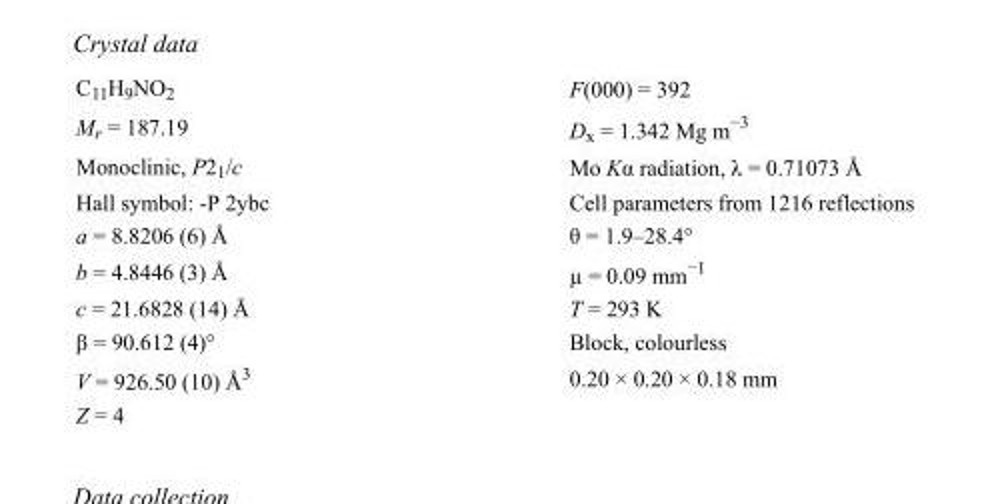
<table><tbody><tr><td>C<sub>11</sub>H<sub>9</sub>NO<sub>2</sub></td><td>F(000) = 392</td></tr><tr><td>M<sub>r</sub> = 187.19</td><td>D<sub>x</sub> = 1.342 Mg m<sup>−3</sup></td></tr><tr><td>Monoclinic, P2<sub>1</sub>/c</td><td>Mo Kα radiation, λ = 0.71073 Å</td></tr><tr><td>Hall symbol: -P 2ybc</td><td>Cell parameters from 1216 reflections</td></tr><tr><td>a = 8.8206 (6) Å</td><td>θ = 1.9–28.4°</td></tr><tr><td>b = 4.8446 (3) Å</td><td>µ = 0.09 mm<sup>−1</sup></td></tr><tr><td>c = 21.6828 (14) Å</td><td>T = 293 K</td></tr><tr><td>β = 90.612 (4)°</td><td>Block, colourless</td></tr><tr><td>V = 926.50 (10) Å<sup>3</sup></td><td>0.20 × 0.20 × 0.18 mm</td></tr><tr><td>Z = 4</td><td></td></tr></tbody></table>